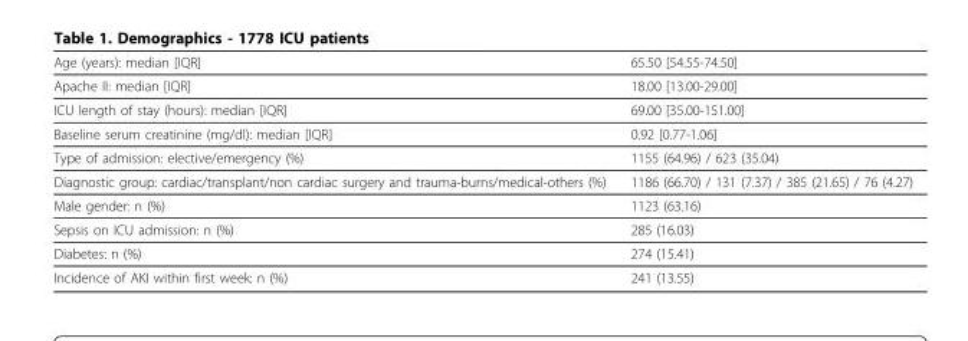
<table><tbody><tr><td>Age (years): median [IQR]</td><td>65.50 [54.55-74.50]</td></tr><tr><td>Apache II: median [IQR]</td><td>18.00 [13.00-29.00]</td></tr><tr><td>ICU length of stay (hours): median [IQR]</td><td>69.00 [35.00-151.00]</td></tr><tr><td>Baseline serum creatinine (mg/dl): median [IQR]</td><td>0.92 [0.77-1.06]</td></tr><tr><td>Type of admission: elective/emergency (%)</td><td>1155 (64.96) / 623 (35.04)</td></tr><tr><td>Diagnostic group: cardiac/transplant/non cardiac surgery and trauma-burns/medical-others (%)</td><td>1186 (66.70) / 131 (7.37) / 385 (21.65) / 76 (4.27)</td></tr><tr><td>Male gender: n (%)</td><td>1123 (63.16)</td></tr><tr><td>Sepsis on ICU admission: n (%)</td><td>285 (16.03)</td></tr><tr><td>Diabetes: n (%)</td><td>274 (15.41)</td></tr><tr><td>Incidence of AKI within first week: n (%)</td><td>241 (13.55)</td></tr></tbody></table>